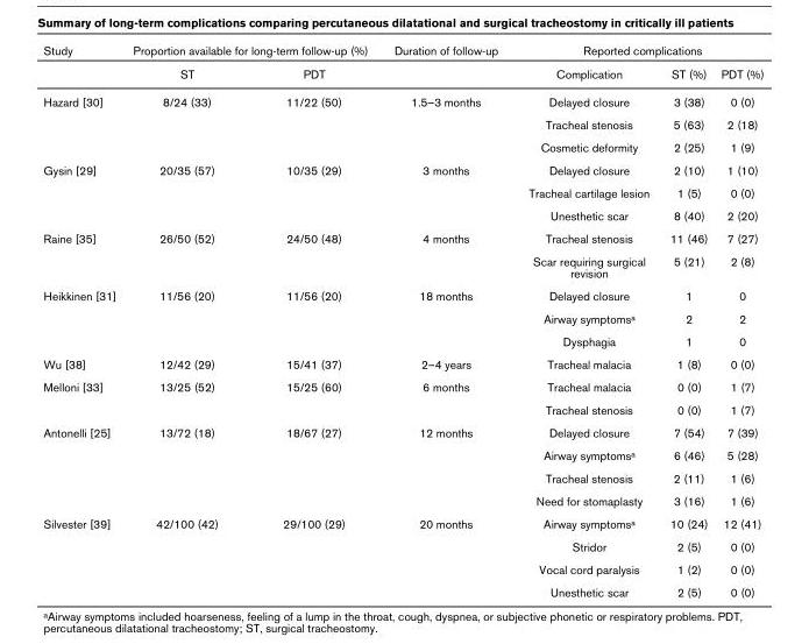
<table><thead><tr><td rowspan="2">Study</td><td colspan="2">Proportion available for long-term follow-up (%)</td><td rowspan="2">Duration of follow-up</td><td colspan="3">Reported complications</td></tr><tr><td>ST</td><td>PDT</td><td>Complication</td><td>ST (%)</td><td>PDT (%)</td></tr></thead><tbody><tr><td rowspan="3">Hazard [30]</td><td>8/24 (33)</td><td>11/22 (50)</td><td>1.5–3 months</td><td>Delayed closure</td><td>3 (38)</td><td>0 (0)</td></tr><tr><td></td><td></td><td></td><td>Tracheal stenosis</td><td>5 (63)</td><td>2 (18)</td></tr><tr><td></td><td></td><td></td><td>Cosmetic deformity</td><td>2 (25)</td><td>1 (9)</td></tr><tr><td rowspan="3">Gysin [29]</td><td>20/35 (57)</td><td>10/35 (29)</td><td>3 months</td><td>Delayed closure</td><td>2 (10)</td><td>1 (10)</td></tr><tr><td></td><td></td><td></td><td>Tracheal cartilage lesion</td><td>1 (5)</td><td>0 (0)</td></tr><tr><td></td><td></td><td></td><td>Unesthetic scar</td><td>8 (40)</td><td>2 (20)</td></tr><tr><td rowspan="2">Raine [35]</td><td>26/50 (52)</td><td>24/50 (48)</td><td>4 months</td><td>Tracheal stenosis</td><td>11 (46)</td><td>7 (27)</td></tr><tr><td></td><td></td><td></td><td>Scar requiring surgical revision</td><td>5 (21)</td><td>2 (8)</td></tr><tr><td rowspan="3">Heikkinen [31]</td><td>11/56 (20)</td><td>11/56 (20)</td><td>18 months</td><td>Delayed closure</td><td>1</td><td>0</td></tr><tr><td></td><td></td><td></td><td>Airway symptomsa</td><td>2</td><td>2</td></tr><tr><td></td><td></td><td></td><td>Dysphagia</td><td>1</td><td>0</td></tr><tr><td>Wu [38]</td><td>12/42 (29)</td><td>15/41 (37)</td><td>2–4 years</td><td>Tracheal malacia</td><td>1 (8)</td><td>0 (0)</td></tr><tr><td rowspan="2">Melloni [33]</td><td>13/25 (52)</td><td>15/25 (60)</td><td>6 months</td><td>Tracheal malacia</td><td>0 (0)</td><td>1 (7)</td></tr><tr><td></td><td></td><td></td><td>Tracheal stenosis</td><td>0 (0)</td><td>1 (7)</td></tr><tr><td rowspan="4">Antonelli [25]</td><td>13/72 (18)</td><td>18/67 (27)</td><td>12 months</td><td>Delayed closure</td><td>7 (54)</td><td>7 (39)</td></tr><tr><td></td><td></td><td></td><td>Airway symptomsa</td><td>6 (46)</td><td>5 (28)</td></tr><tr><td></td><td></td><td></td><td>Tracheal stenosis</td><td>2 (11)</td><td>1 (6)</td></tr><tr><td></td><td></td><td></td><td>Need for stomaplasty</td><td>3 (16)</td><td>1 (6)</td></tr><tr><td rowspan="4">Silvester [39]</td><td>42/100 (42)</td><td>29/100 (29)</td><td>20 months</td><td>Airway symptomsa</td><td>10 (24)</td><td>12 (41)</td></tr><tr><td></td><td></td><td></td><td>Stridor</td><td>2 (5)</td><td>0 (0)</td></tr><tr><td></td><td></td><td></td><td>Vocal cord paralysis</td><td>1 (2)</td><td>0 (0)</td></tr><tr><td></td><td></td><td></td><td>Unesthetic scar</td><td>2 (5)</td><td>0 (0)</td></tr></tbody></table>